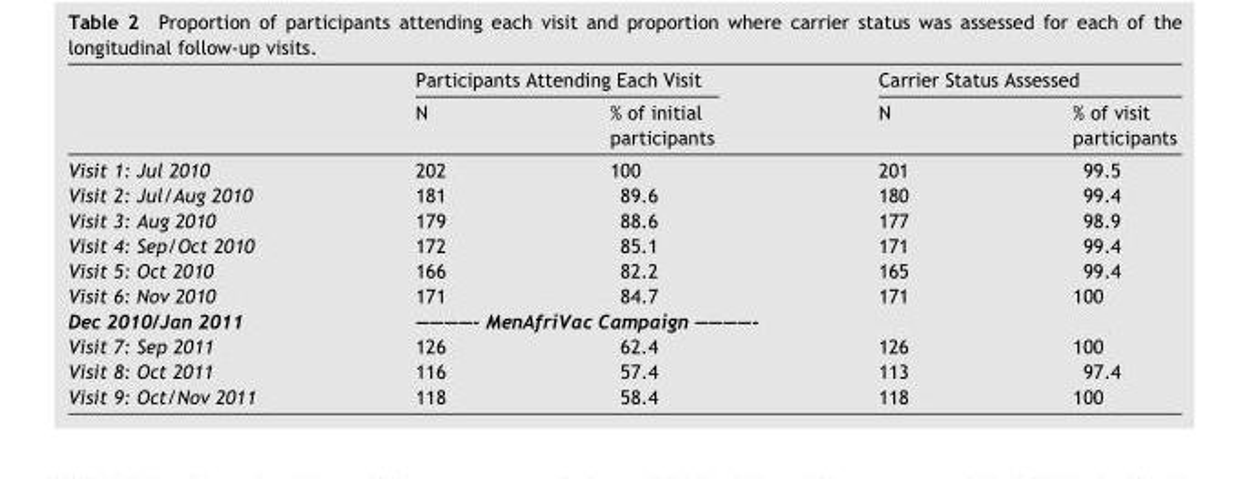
<table><thead><tr><td rowspan="2"></td><td colspan="2">Participants Attending Each Visit</td><td colspan="2">Carrier Status Assessed</td></tr><tr><td>N</td><td>% of initial participants</td><td>N</td><td>% of visit participants</td></tr></thead><tbody><tr><td>Visit 1: Jul 2010</td><td>202</td><td>100</td><td>201</td><td>99.5</td></tr><tr><td>Visit 2: Jul/Aug 2010</td><td>181</td><td>89.6</td><td>180</td><td>99.4</td></tr><tr><td>Visit 3: Aug 2010</td><td>179</td><td>88.6</td><td>177</td><td>98.9</td></tr><tr><td>Visit 4: Sep/Oct 2010</td><td>172</td><td>85.1</td><td>171</td><td>99.4</td></tr><tr><td>Visit 5: Oct 2010</td><td>166</td><td>82.2</td><td>165</td><td>99.4</td></tr><tr><td>Visit 6: Nov 2010</td><td>171</td><td>84.7</td><td>171</td><td>100</td></tr><tr><td>Dec 2010/Jan 2011</td><td colspan="4">————- MenAfriVac Campaign ————-</td></tr><tr><td>Visit 7: Sep 2011</td><td>126</td><td>62.4</td><td>126</td><td>100</td></tr><tr><td>Visit 8: Oct 2011</td><td>116</td><td>57.4</td><td>113</td><td>97.4</td></tr><tr><td>Visit 9: Oct/Nov 2011</td><td>118</td><td>58.4</td><td>118</td><td>100</td></tr></tbody></table>